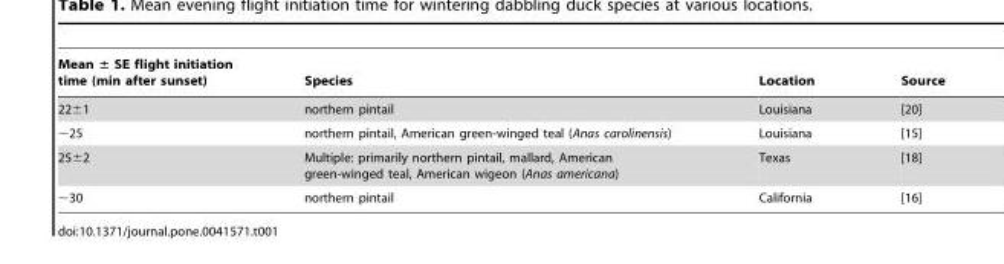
<table><thead><tr><td>Mean ± SE flight initiation time (min after sunset)</td><td>Species</td><td>Location</td><td>Source</td></tr></thead><tbody><tr><td>22±1</td><td>northern pintail</td><td>Louisiana</td><td>[20]</td></tr><tr><td>∼25</td><td>northern pintail, American green-winged teal (Anas carolinensis)</td><td>Louisiana</td><td>[15]</td></tr><tr><td>25±2</td><td>Multiple: primarily northern pintail, mallard, American green-winged teal, American wigeon (Anas americana)</td><td>Texas</td><td>[18]</td></tr><tr><td>∼30</td><td>northern pintail</td><td>California</td><td>[16]</td></tr></tbody></table>